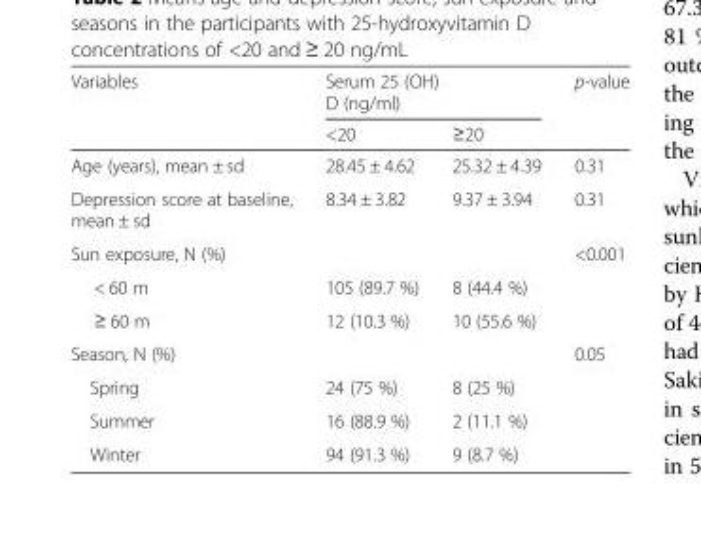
<table><thead><tr><td rowspan="2">Variables</td><td colspan="2">Serum 25 (OH) D (ng/ml)</td><td rowspan="2">p-value</td></tr><tr><td>&lt;20</td><td>≥20</td></tr></thead><tbody><tr><td>Age (years), mean ± sd</td><td>28.45 ± 4.62</td><td>25.32 ± 4.39</td><td>0.31</td></tr><tr><td>Depression score at baseline, mean ± sd</td><td>8.34 ± 3.82</td><td>9.37 ± 3.94</td><td>0.31</td></tr><tr><td>Sun exposure, N (%)</td><td></td><td></td><td>&lt;0.001</td></tr><tr><td>&lt; 60 m</td><td>105 (89.7 %)</td><td>8 (44.4 %)</td><td rowspan="2"></td></tr><tr><td>≥ 60 m</td><td>12 (10.3 %)</td><td>10 (55.6 %)</td></tr><tr><td>Season, N (%)</td><td></td><td></td><td>0.05</td></tr><tr><td>Spring</td><td>24 (75 %)</td><td>8 (25 %)</td><td rowspan="3"></td></tr><tr><td>Summer</td><td>16 (88.9 %)</td><td>2 (11.1 %)</td></tr><tr><td>Winter</td><td>94 (91.3 %)</td><td>9 (8.7 %)</td></tr></tbody></table>